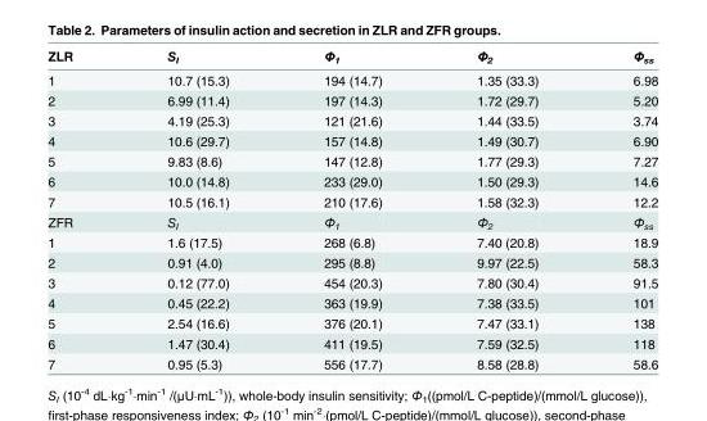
<table><thead><tr><td>ZLR</td><td>S<sub>I</sub></td><td>Φ<sub>1</sub></td><td>Φ<sub>2</sub></td><td>Φ<sub>ss</sub></td></tr></thead><tbody><tr><td>1</td><td>10.7 (15.3)</td><td>194 (14.7)</td><td>1.35 (33.3)</td><td>6.98</td></tr><tr><td>2</td><td>6.99 (11.4)</td><td>197 (14.3)</td><td>1.72 (29.7)</td><td>5.20</td></tr><tr><td>3</td><td>4.19 (25.3)</td><td>121 (21.6)</td><td>1.44 (33.5)</td><td>3.74</td></tr><tr><td>4</td><td>10.6 (29.7)</td><td>157 (14.8)</td><td>1.49 (30.7)</td><td>6.90</td></tr><tr><td>5</td><td>9.83 (8.6)</td><td>147 (12.8)</td><td>1.77 (29.3)</td><td>7.27</td></tr><tr><td>6</td><td>10.0 (14.8)</td><td>233 (29.0)</td><td>1.50 (29.3)</td><td>14.6</td></tr><tr><td>7</td><td>10.5 (16.1)</td><td>210 (17.6)</td><td>1.58 (32.3)</td><td>12.2</td></tr><tr><td>ZFR</td><td>S<sub>I</sub></td><td>Φ<sub>1</sub></td><td>Φ<sub>2</sub></td><td>Φ<sub>ss</sub></td></tr><tr><td>1</td><td>1.6 (17.5)</td><td>268 (6.8)</td><td>7.40 (20.8)</td><td>18.9</td></tr><tr><td>2</td><td>0.91 (4.0)</td><td>295 (8.8)</td><td>9.97 (22.5)</td><td>58.3</td></tr><tr><td>3</td><td>0.12 (77.0)</td><td>454 (20.3)</td><td>7.80 (30.4)</td><td>91.5</td></tr><tr><td>4</td><td>0.45 (22.2)</td><td>363 (19.9)</td><td>7.38 (33.5)</td><td>101</td></tr><tr><td>5</td><td>2.54 (16.6)</td><td>376 (20.1)</td><td>7.47 (33.1)</td><td>138</td></tr><tr><td>6</td><td>1.47 (30.4)</td><td>411 (19.5)</td><td>7.59 (32.5)</td><td>118</td></tr><tr><td>7</td><td>0.95 (5.3)</td><td>556 (17.7)</td><td>8.58 (28.8)</td><td>58.6</td></tr></tbody></table>